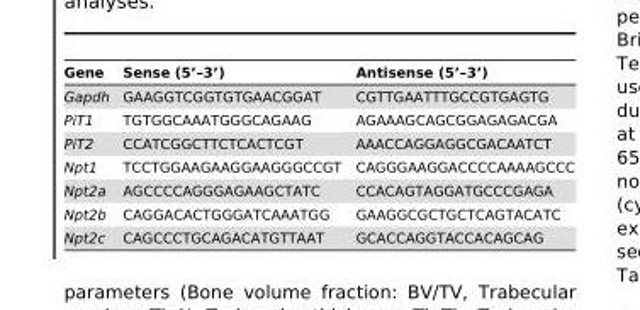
<table><thead><tr><td>Gene</td><td>Sense (5’–3’)</td><td>Antisense (5’–3’)</td></tr></thead><tbody><tr><td>Gapdh</td><td>GAAGGTCGGTGTGAACGGAT</td><td>CGTTGAATTTGCCGTGAGTG</td></tr><tr><td>PiT1</td><td>TGTGGCAAATGGGCAGAAG</td><td>AGAAAGCAGCGGAGAGACGA</td></tr><tr><td>PiT2</td><td>CCATCGGCTTCTCACTCGT</td><td>AAACCAGGAGGCGACAATCT</td></tr><tr><td>Npt1</td><td>TCCTGGAAGAAGGAAGGGCCGT</td><td>CAGGGAAGGACCCCAAAAGCCC</td></tr><tr><td>Npt2a</td><td>AGCCCCAGGGAGAAGCTATC</td><td>CCACAGTAGGATGCCCGAGA</td></tr><tr><td>Npt2b</td><td>CAGGACACTGGGATCAAATGG</td><td>GAAGGCGCTGCTCAGTACATC</td></tr><tr><td>Npt2c</td><td>CAGCCCTGCAGACATGTTAAT</td><td>GCACCAGGTACCACAGCAG</td></tr></tbody></table>